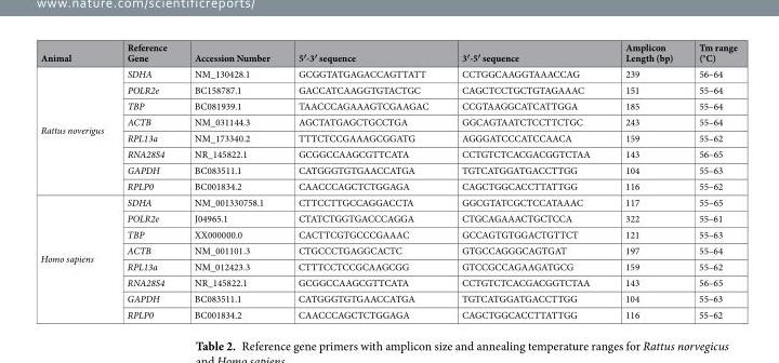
<table><thead><tr><td>Animal</td><td>Reference Gene</td><td>Accession Number</td><td>5′-3′ sequence</td><td>3′-5′ sequence</td><td>Amplicon Length (bp)</td><td>Tm range (°C)</td></tr></thead><tbody><tr><td rowspan="8">Rattus noverigus</td><td>SDHA</td><td>NM_130428.1</td><td>GCGGTATGAGACCAGTTATT</td><td>CCTGGCAAGGTAAACCAG</td><td>239</td><td>56–64</td></tr><tr><td>POLR2e</td><td>BC158787.1</td><td>GACCATCAAGGTGTACTGC</td><td>CAGCTCCTGCTGTAGAAAC</td><td>151</td><td>55–64</td></tr><tr><td>TBP</td><td>BC081939.1</td><td>TAACCCAGAAAGTCGAAGAC</td><td>CCGTAAGGCATCATTGGA</td><td>185</td><td>55–64</td></tr><tr><td>ACTB</td><td>NM_031144.3</td><td>AGCTATGAGCTGCCTGA</td><td>GGCAGTAATCTCCTTCTGC</td><td>243</td><td>55–64</td></tr><tr><td>RPL13a</td><td>NM_173340.2</td><td>TTTCTCCGAAAGCGGATG</td><td>AGGGATCCCATCCAACA</td><td>159</td><td>55–62</td></tr><tr><td>RNA28S4</td><td>NR_145822.1</td><td>GCGGCCAAGCGTTCATA</td><td>CCTGTCTCACGACGGTCTAA</td><td>143</td><td>56–65</td></tr><tr><td>GAPDH</td><td>BC083511.1</td><td>CATGGGTGTGAACCATGA</td><td>TGTCATGGATGACCTTGG</td><td>104</td><td>55–63</td></tr><tr><td>RPLP0</td><td>BC001834.2</td><td>CAACCCAGCTCTGGAGA</td><td>CAGCTGGCACCTTATTGG</td><td>116</td><td>55–62</td></tr><tr><td rowspan="8">Homo sapiens</td><td>SDHA</td><td>NM_001330758.1</td><td>CTTCCTTGCCAGGACCTA</td><td>GGCGTATCGCTCCATAAAC</td><td>117</td><td>55–65</td></tr><tr><td>POLR2e</td><td>J04965.1</td><td>CTATCTGGTGACCCAGGA</td><td>CTGCAGAAACTGCTCCA</td><td>322</td><td>55–61</td></tr><tr><td>TBP</td><td>XX000000.0</td><td>CACTTCGTGCCCGAAAC</td><td>GCCAGTGTGGACTGTTCT</td><td>121</td><td>55–63</td></tr><tr><td>ACTB</td><td>NM_001101.3</td><td>CTGCCCTGAGGCACTC</td><td>GTGCCAGGGCAGTGAT</td><td>197</td><td>55–64</td></tr><tr><td>RPL13a</td><td>NM_012423.3</td><td>CTTTCCTCCGCAAGCGG</td><td>GTCCGCCAGAAGATGCG</td><td>159</td><td>55–62</td></tr><tr><td>RNA28S4</td><td>NR_145822.1</td><td>GCGGCCAAGCGTTCATA</td><td>CCTGTCTCACGACGGTCTAA</td><td>143</td><td>56–65</td></tr><tr><td>GAPDH</td><td>BC083511.1</td><td>CATGGGTGTGAACCATGA</td><td>TGTCATGGATGACCTTGG</td><td>104</td><td>55–63</td></tr><tr><td>RPLP0</td><td>BC001834.2</td><td>CAACCCAGCTCTGGAGA</td><td>CAGCTGGCACCTTATTGG</td><td>116</td><td>55–62</td></tr></tbody></table>